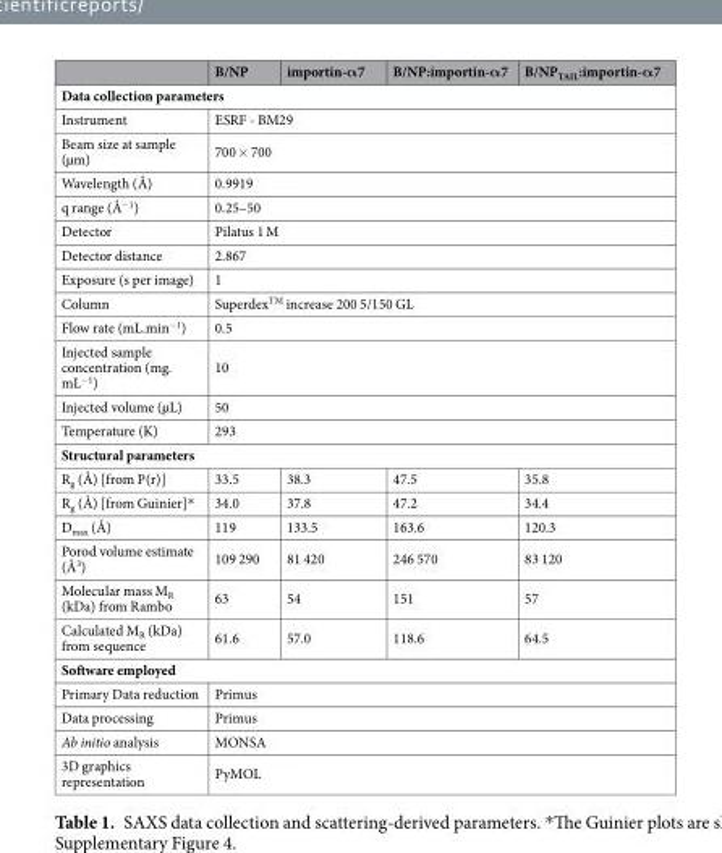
<table><thead><tr><td></td><td>B/NP</td><td>importin-α7</td><td>B/NP:importin-α7</td><td>B/NP<sub>TAIL</sub>:importin-α7</td></tr></thead><tbody><tr><td colspan="5">Data collection parameters</td></tr><tr><td>Instrument</td><td colspan="4">ESRF - BM29</td></tr><tr><td>Beam size at sample (µm)</td><td colspan="4">700 × 700</td></tr><tr><td>Wavelength (Å)</td><td colspan="4">0.9919</td></tr><tr><td>q range (Å<sup>−1</sup>)</td><td colspan="4">0.25–50</td></tr><tr><td>Detector</td><td colspan="4">Pilatus 1 M</td></tr><tr><td>Detector distance</td><td colspan="4">2.867</td></tr><tr><td>Exposure (s per image)</td><td colspan="4">1</td></tr><tr><td>Column</td><td colspan="4">Superdex<sup>TM</sup> increase 200 5/150 GL</td></tr><tr><td>Flow rate (mL.min<sup>−1</sup>)</td><td colspan="4">0.5</td></tr><tr><td>Injected sample concentration (mg. mL<sup>−1</sup>)</td><td colspan="4">10</td></tr><tr><td>Injected volume (µL)</td><td colspan="4">50</td></tr><tr><td>Temperature (K)</td><td colspan="4">293</td></tr><tr><td colspan="5">Structural parameters</td></tr><tr><td>R<sub>g</sub> (Å) [from P(r)]</td><td>33.5</td><td>38.3</td><td>47.5</td><td>35.8</td></tr><tr><td>R<sub>g</sub> (Å) [from Guinier]*</td><td>34.0</td><td>37.8</td><td>47.2</td><td>34.4</td></tr><tr><td>D<sub>max</sub> (Å)</td><td>119</td><td>133.5</td><td>163.6</td><td>120.3</td></tr><tr><td>Porod volume estimate (Å<sup>3</sup>)</td><td>109 290</td><td>81 420</td><td>246 570</td><td>83 120</td></tr><tr><td>Molecular mass M<sub>R</sub> (kDa) from Rambo</td><td>63</td><td>54</td><td>151</td><td>57</td></tr><tr><td>Calculated M<sub>R</sub> (kDa) from sequence</td><td>61.6</td><td>57.0</td><td>118.6</td><td>64.5</td></tr><tr><td colspan="5">Software employed</td></tr><tr><td>Primary Data reduction</td><td colspan="4">Primus</td></tr><tr><td>Data processing</td><td colspan="4">Primus</td></tr><tr><td>Ab initio analysis</td><td colspan="4">MONSA</td></tr><tr><td>3D graphics representation</td><td colspan="4">PyMOL</td></tr></tbody></table>